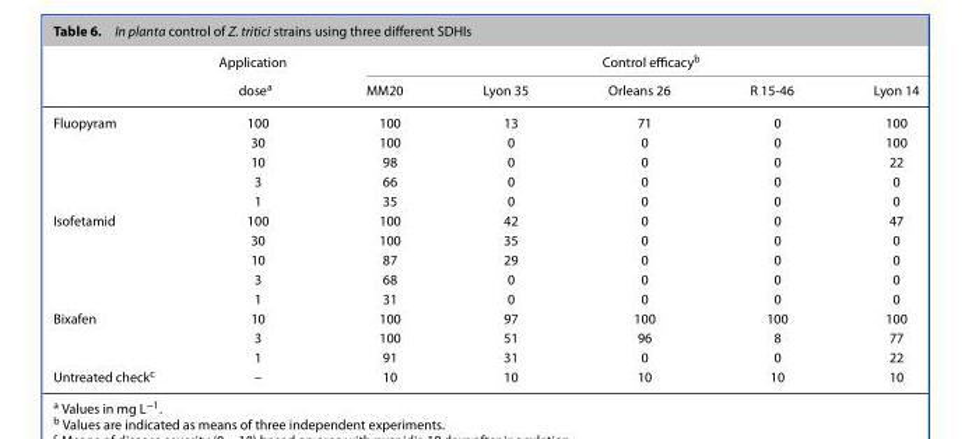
<table><thead><tr><td rowspan="2"></td><td rowspan="2">Application dose<sup>a</sup></td><td colspan="5">Control efficacy<sup>b</sup></td></tr><tr><td>MM20</td><td>Lyon 35</td><td>Orleans 26</td><td>R 15-46</td><td>Lyon 14</td></tr></thead><tbody><tr><td rowspan="5">Fluopyram</td><td>100</td><td>100</td><td>13</td><td>71</td><td>0</td><td>100</td></tr><tr><td>30</td><td>100</td><td>0</td><td>0</td><td>0</td><td>100</td></tr><tr><td>10</td><td>98</td><td>0</td><td>0</td><td>0</td><td>22</td></tr><tr><td>3</td><td>66</td><td>0</td><td>0</td><td>0</td><td>0</td></tr><tr><td>1</td><td>35</td><td>0</td><td>0</td><td>0</td><td>0</td></tr><tr><td rowspan="5">Isofetamid</td><td>100</td><td>100</td><td>42</td><td>0</td><td>0</td><td>47</td></tr><tr><td>30</td><td>100</td><td>35</td><td>0</td><td>0</td><td>0</td></tr><tr><td>10</td><td>87</td><td>29</td><td>0</td><td>0</td><td>0</td></tr><tr><td>3</td><td>68</td><td>0</td><td>0</td><td>0</td><td>0</td></tr><tr><td>1</td><td>31</td><td>0</td><td>0</td><td>0</td><td>0</td></tr><tr><td rowspan="3">Bixafen</td><td>10</td><td>100</td><td>97</td><td>100</td><td>100</td><td>100</td></tr><tr><td>3</td><td>100</td><td>51</td><td>96</td><td>8</td><td>77</td></tr><tr><td>1</td><td>91</td><td>31</td><td>0</td><td>0</td><td>22</td></tr><tr><td>Untreated check<sup>c</sup></td><td>–</td><td>10</td><td>10</td><td>10</td><td>10</td><td>10</td></tr></tbody></table>